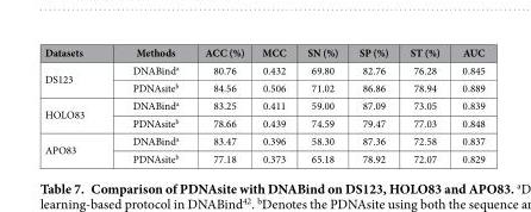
<table><thead><tr><td>Datasets</td><td>Methods</td><td>ACC (%)</td><td>MCC</td><td>SN (%)</td><td>SP (%)</td><td>ST (%)</td><td>AUC</td></tr></thead><tbody><tr><td rowspan="2">DS123</td><td>DNABind<sup>a</sup></td><td>80.76</td><td>0.432</td><td>69.80</td><td>82.76</td><td>76.28</td><td>0.845</td></tr><tr><td>PDNAsite<sup>b</sup></td><td>84.56</td><td>0.506</td><td>71.02</td><td>86.86</td><td>78.94</td><td>0.889</td></tr><tr><td rowspan="2">HOLO83</td><td>DNABind<sup>a</sup></td><td>83.25</td><td>0.411</td><td>59.00</td><td>87.09</td><td>73.05</td><td>0.839</td></tr><tr><td>PDNAsite<sup>b</sup></td><td>78.66</td><td>0.439</td><td>74.59</td><td>79.47</td><td>77.03</td><td>0.848</td></tr><tr><td rowspan="2">APO83</td><td>DNABind<sup>a</sup></td><td>83.47</td><td>0.396</td><td>58.30</td><td>87.36</td><td>72.58</td><td>0.837</td></tr><tr><td>PDNAsite<sup>b</sup></td><td>77.18</td><td>0.373</td><td>65.18</td><td>78.92</td><td>72.07</td><td>0.829</td></tr></tbody></table>